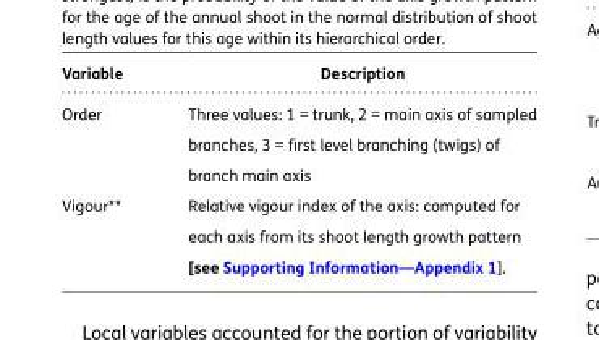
<table><thead><tr><td>Variable</td><td>Description</td></tr></thead><tbody><tr><td>Order</td><td>Three values: 1 = trunk, 2 = main axis of sampled branches, 3 = first level branching (twigs) of branch main axis</td></tr><tr><td>Vigour**</td><td>Relative vigour index of the axis: computed for each axis from its shoot length growth pattern [see Supporting Information—Appendix 1].</td></tr></tbody></table>